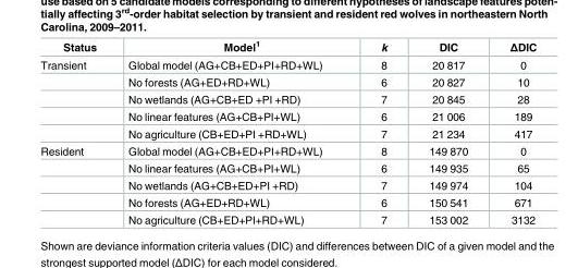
<table><thead><tr><td>Status</td><td>Model<sup>1</sup></td><td>k</td><td>DIC</td><td>ΔDIC</td></tr></thead><tbody><tr><td rowspan="5">Transient</td><td>Global model (AG+CB+ED+PI+RD+WL)</td><td>8</td><td>20 817</td><td>0</td></tr><tr><td>No forests (AG+ED+RD+WL)</td><td>6</td><td>20 827</td><td>10</td></tr><tr><td>No wetlands (AG+CB+ED +PI +RD)</td><td>7</td><td>20 845</td><td>28</td></tr><tr><td>No linear features (AG+CB+PI+WL)</td><td>6</td><td>21 006</td><td>189</td></tr><tr><td>No agriculture (CB+ED+PI +RD+WL)</td><td>7</td><td>21 234</td><td>417</td></tr><tr><td rowspan="5">Resident</td><td>Global model (AG+CB+ED+PI+RD+WL)</td><td>8</td><td>149 870</td><td>0</td></tr><tr><td>No linear features (AG+CB+PI+WL)</td><td>6</td><td>149 935</td><td>65</td></tr><tr><td>No wetlands (AG+CB+ED+PI +RD)</td><td>7</td><td>149 974</td><td>104</td></tr><tr><td>No forests (AG+ED+RD+WL)</td><td>6</td><td>150 541</td><td>671</td></tr><tr><td>No agriculture (CB+ED+PI+RD+WL)</td><td>7</td><td>153 002</td><td>3132</td></tr></tbody></table>